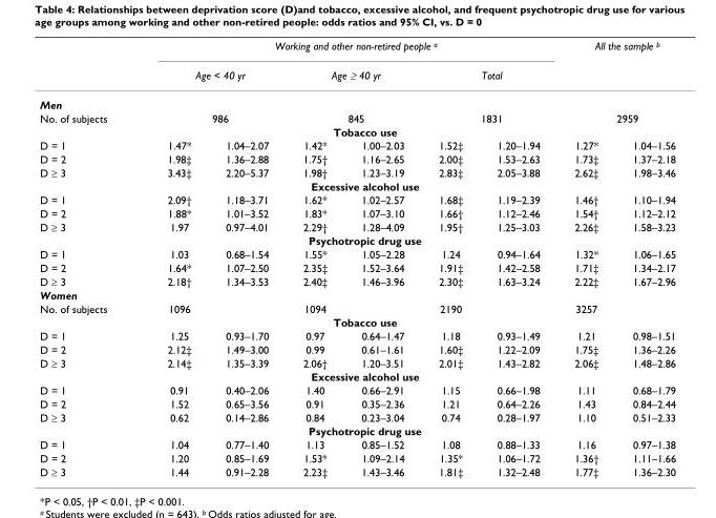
<table><thead><tr><td rowspan="3">Men</td><td colspan="6">Working and other non-retired people <sup>a</sup></td><td colspan="2">All the sample <sup>b</sup></td></tr><tr><td colspan="2">Age &lt; 40 yr</td><td colspan="2">Age ≥ 40 yr</td><td colspan="2">Total</td><td rowspan="2"></td><td rowspan="2"></td></tr><tr><td></td><td></td><td></td><td></td><td></td><td></td></tr></thead><tbody><tr><td>No. of subjects</td><td colspan="2">986</td><td colspan="2">845</td><td colspan="2">1831</td><td colspan="2">2959</td></tr><tr><td colspan="9">Tobacco use</td></tr><tr><td>D = 1</td><td>1.47*</td><td>1.04–2.07</td><td>1.42*</td><td>1.00–2.03</td><td>1.52‡</td><td>1.20–1.94</td><td>1.27*</td><td>1.04–1.56</td></tr><tr><td>D = 2</td><td>1.98‡</td><td>1.36–2.88</td><td>1.75†</td><td>1.16–2.65</td><td>2.00‡</td><td>1.53–2.63</td><td>1.73‡</td><td>1.37–2.18</td></tr><tr><td>D ≥ 3</td><td>3.43‡</td><td>2.20–5.37</td><td>1.98†</td><td>1.23–3.19</td><td>2.83‡</td><td>2.05–3.88</td><td>2.62‡</td><td>1.98–3.46</td></tr><tr><td colspan="9">Excessive alcohol use</td></tr><tr><td>D = 1</td><td>2.09†</td><td>1.18–3.71</td><td>1.62*</td><td>1.02–2.57</td><td>1.68‡</td><td>1.19–2.39</td><td>1.46†</td><td>1.10–1.94</td></tr><tr><td>D = 2</td><td>1.88*</td><td>1.01–3.52</td><td>1.83*</td><td>1.07–3.10</td><td>1.66†</td><td>1.12–2.46</td><td>1.54†</td><td>1.12–2.12</td></tr><tr><td>D ≥ 3</td><td>1.97</td><td>0.97–4.01</td><td>2.29†</td><td>1.28–4.09</td><td>1.95†</td><td>1.25–3.03</td><td>2.26‡</td><td>1.58–3.23</td></tr><tr><td colspan="9">Psychotropic drug use</td></tr><tr><td>D = 1</td><td>1.03</td><td>0.68–1.54</td><td>1.55*</td><td>1.05–2.28</td><td>1.24</td><td>0.94–1.64</td><td>1.32*</td><td>1.06–1.65</td></tr><tr><td>D = 2</td><td>1.64*</td><td>1.07–2.50</td><td>2.35‡</td><td>1.52–3.64</td><td>1.91‡</td><td>1.42–2.58</td><td>1.71‡</td><td>1.34–2.17</td></tr><tr><td>D ≥ 3</td><td>2.18†</td><td>1.34–3.53</td><td>2.40‡</td><td>1.46–3.96</td><td>2.30‡</td><td>1.63–3.24</td><td>2.22‡</td><td>1.67–2.96</td></tr><tr><td colspan="9">Women</td></tr><tr><td>No. of subjects</td><td>1096</td><td></td><td>1094</td><td></td><td>2190</td><td></td><td>3257</td><td></td></tr><tr><td colspan="9">Tobacco use</td></tr><tr><td>D = 1</td><td>1.25</td><td>0.93–1.70</td><td>0.97</td><td>0.64–1.47</td><td>1.18</td><td>0.93–1.49</td><td>1.21</td><td>0.98–1.51</td></tr><tr><td>D = 2</td><td>2.12‡</td><td>1.49–3.00</td><td>0.99</td><td>0.61–1.61</td><td>1.60‡</td><td>1.22–2.09</td><td>1.75‡</td><td>1.36–2.26</td></tr><tr><td>D ≥ 3</td><td>2.14‡</td><td>1.35–3.39</td><td>2.06†</td><td>1.20–3.51</td><td>2.01‡</td><td>1.43–2.82</td><td>2.06‡</td><td>1.48–2.86</td></tr><tr><td colspan="9">Excessive alcohol use</td></tr><tr><td>D = 1</td><td>0.91</td><td>0.40–2.06</td><td>1.40</td><td>0.66–2.91</td><td>1.15</td><td>0.66–1.98</td><td>1.11</td><td>0.68–1.79</td></tr><tr><td>D = 2</td><td>1.52</td><td>0.65–3.56</td><td>0.91</td><td>0.35–2.36</td><td>1.21</td><td>0.64–2.26</td><td>1.43</td><td>0.84–2.44</td></tr><tr><td>D ≥ 3</td><td>0.62</td><td>0.14–2.86</td><td>0.84</td><td>0.23–3.04</td><td>0.74</td><td>0.28–1.97</td><td>1.10</td><td>0.51–2.33</td></tr><tr><td colspan="9">Psychotropic drug use</td></tr><tr><td>D = 1</td><td>1.04</td><td>0.77–1.40</td><td>1.13</td><td>0.85–1.52</td><td>1.08</td><td>0.88–1.33</td><td>1.16</td><td>0.97–1.38</td></tr><tr><td>D = 2</td><td>1.20</td><td>0.85–1.69</td><td>1.53*</td><td>1.09–2.14</td><td>1.35*</td><td>1.06–1.72</td><td>1.36†</td><td>1.11–1.66</td></tr><tr><td>D ≥ 3</td><td>1.44</td><td>0.91–2.28</td><td>2.23‡</td><td>1.43–3.46</td><td>1.81‡</td><td>1.32–2.48</td><td>1.77‡</td><td>1.36–2.30</td></tr></tbody></table>